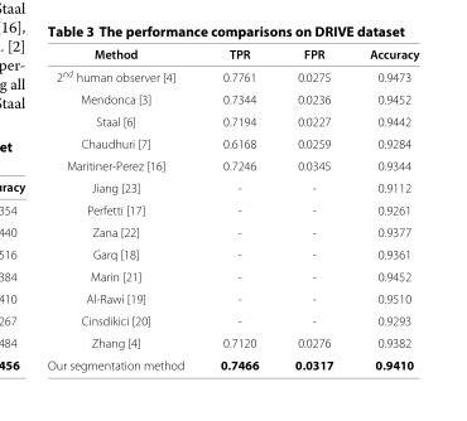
<table><thead><tr><td>Method</td><td>TPR</td><td>FPR</td><td>Accuracy</td></tr></thead><tbody><tr><td>2<sup>nd</sup> human observer [4]</td><td>0.7761</td><td>0.0275</td><td>0.9473</td></tr><tr><td>Mendonca [3]</td><td>0.7344</td><td>0.0236</td><td>0.9452</td></tr><tr><td>Staal [6]</td><td>0.7194</td><td>0.0227</td><td>0.9442</td></tr><tr><td>Chaudhuri [7]</td><td>0.6168</td><td>0.0259</td><td>0.9284</td></tr><tr><td>Maritiner-Perez [16]</td><td>0.7246</td><td>0.0345</td><td>0.9344</td></tr><tr><td>Jiang [23]</td><td>-</td><td>-</td><td>0.9112</td></tr><tr><td>Perfetti [17]</td><td>-</td><td>-</td><td>0.9261</td></tr><tr><td>Zana [22]</td><td>-</td><td>-</td><td>0.9377</td></tr><tr><td>Garq [18]</td><td>-</td><td>-</td><td>0.9361</td></tr><tr><td>Marin [21]</td><td>-</td><td>-</td><td>0.9452</td></tr><tr><td>Al-Rawi [19]</td><td>-</td><td>-</td><td>0.9510</td></tr><tr><td>Cinsdikici [20]</td><td>-</td><td>-</td><td>0.9293</td></tr><tr><td>Zhang [4]</td><td>0.7120</td><td>0.0276</td><td>0.9382</td></tr><tr><td>Our segmentation method</td><td>0.7466</td><td>0.0317</td><td>0.9410</td></tr></tbody></table>